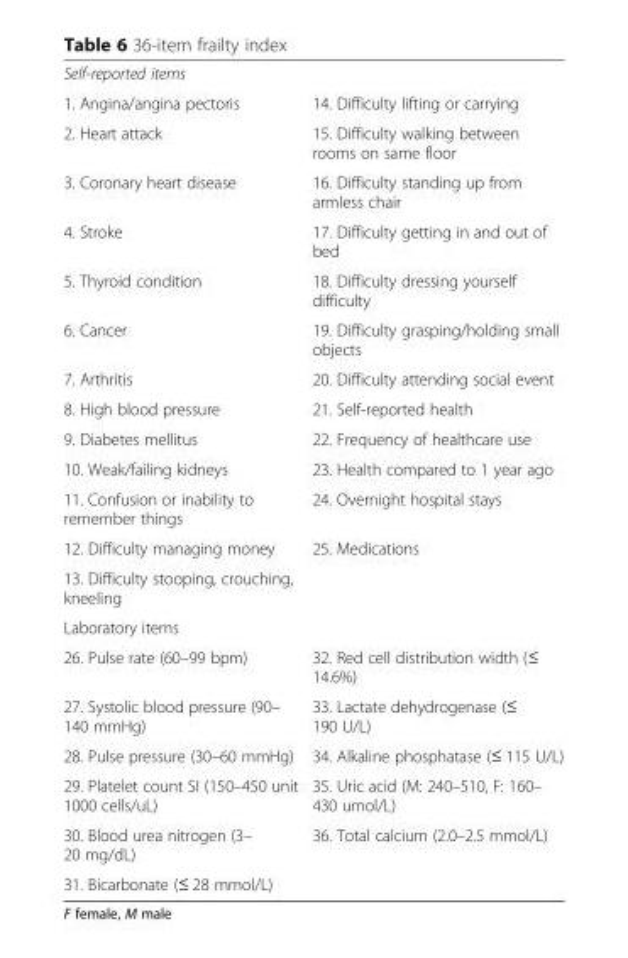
<table><tbody><tr><td colspan="2">Self-reported items</td></tr><tr><td>1. Angina/angina pectoris</td><td>14. Difficulty lifting or carrying</td></tr><tr><td>2. Heart attack</td><td>15. Difficulty walking between rooms on same floor</td></tr><tr><td>3. Coronary heart disease</td><td>16. Difficulty standing up from armless chair</td></tr><tr><td>4. Stroke</td><td>17. Difficulty getting in and out of bed</td></tr><tr><td>5. Thyroid condition</td><td>18. Difficulty dressing yourself difficulty</td></tr><tr><td>6. Cancer</td><td>19. Difficulty grasping/holding small objects</td></tr><tr><td>7. Arthritis</td><td>20. Difficulty attending social event</td></tr><tr><td>8. High blood pressure</td><td>21. Self-reported health</td></tr><tr><td>9. Diabetes mellitus</td><td>22. Frequency of healthcare use</td></tr><tr><td>10. Weak/failing kidneys</td><td>23. Health compared to 1 year ago</td></tr><tr><td>11. Confusion or inability to remember things</td><td>24. Overnight hospital stays</td></tr><tr><td>12. Difficulty managing money</td><td>25. Medications</td></tr><tr><td colspan="2">13. Difficulty stooping, crouching, kneeling</td></tr><tr><td colspan="2">Laboratory items</td></tr><tr><td>26. Pulse rate (60–99 bpm)</td><td>32. Red cell distribution width (≤ 14.6%)</td></tr><tr><td>27. Systolic blood pressure (90– 140 mmHg)</td><td>33. Lactate dehydrogenase (≤ 190 U/L)</td></tr><tr><td>28. Pulse pressure (30–60 mmHg)</td><td>34. Alkaline phosphatase (≤ 115 U/L)</td></tr><tr><td>29. Platelet count SI (150–450 unit 1000 cells/uL)</td><td>35. Uric acid (M: 240–510, F: 160– 430 umol/L)</td></tr><tr><td>30. Blood urea nitrogen (3– 20 mg/dL)</td><td>36. Total calcium (2.0–2.5 mmol/L)</td></tr><tr><td>31. Bicarbonate (≤ 28 mmol/L)</td><td></td></tr></tbody></table>